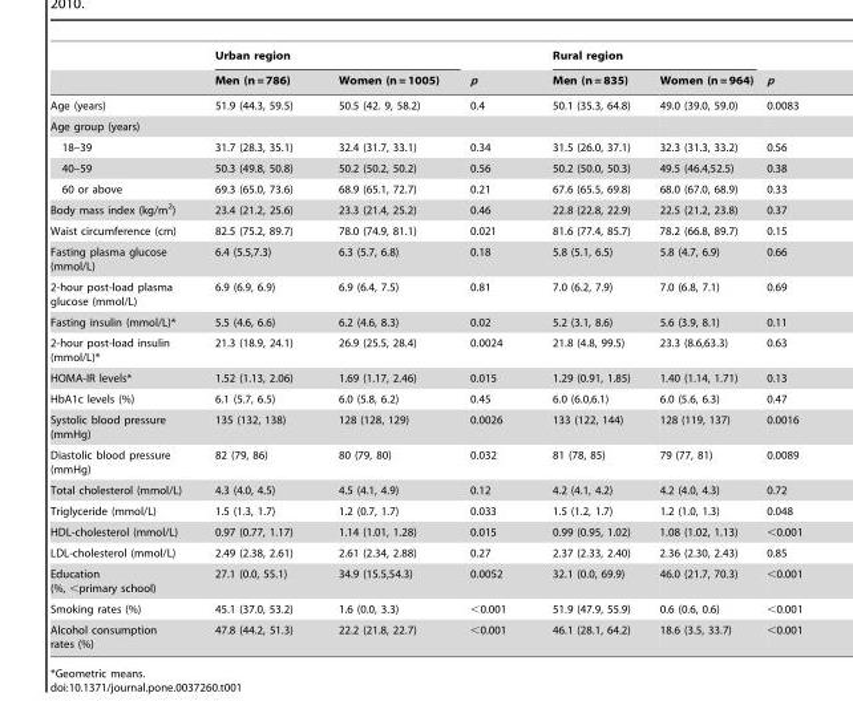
<table><thead><tr><td rowspan="2"></td><td colspan="2">Urban region</td><td rowspan="2">p</td><td colspan="2">Rural region</td><td rowspan="2">p</td></tr><tr><td>Men (n = 786)</td><td>Women (n = 1005)</td><td>Men (n = 835)</td><td>Women (n = 964)</td></tr></thead><tbody><tr><td>Age (years)</td><td>51.9 (44.3, 59.5)</td><td>50.5 (42. 9, 58.2)</td><td>0.4</td><td>50.1 (35.3, 64.8)</td><td>49.0 (39.0, 59.0)</td><td>0.0083</td></tr><tr><td colspan="7">Age group (years)</td></tr><tr><td>18–39</td><td>31.7 (28.3, 35.1)</td><td>32.4 (31.7, 33.1)</td><td>0.34</td><td>31.5 (26.0, 37.1)</td><td>32.3 (31.3, 33.2)</td><td>0.56</td></tr><tr><td>40–59</td><td>50.3 (49.8, 50.8)</td><td>50.2 (50.2, 50.2)</td><td>0.56</td><td>50.2 (50.0, 50.3)</td><td>49.5 (46.4,52.5)</td><td>0.38</td></tr><tr><td>60 or above</td><td>69.3 (65.0, 73.6)</td><td>68.9 (65.1, 72.7)</td><td>0.21</td><td>67.6 (65.5, 69.8)</td><td>68.0 (67.0, 68.9)</td><td>0.33</td></tr><tr><td>Body mass index (kg/m<sup>2</sup>)</td><td>23.4 (21.2, 25.6)</td><td>23.3 (21.4, 25.2)</td><td>0.46</td><td>22.8 (22.8, 22.9)</td><td>22.5 (21.2, 23.8)</td><td>0.37</td></tr><tr><td>Waist circumference (cm)</td><td>82.5 (75.2, 89.7)</td><td>78.0 (74.9, 81.1)</td><td>0.021</td><td>81.6 (77.4, 85.7)</td><td>78.2 (66.8, 89.7)</td><td>0.15</td></tr><tr><td>Fasting plasma glucose (mmol/L)</td><td>6.4 (5.5,7.3)</td><td>6.3 (5.7, 6.8)</td><td>0.18</td><td>5.8 (5.1, 6.5)</td><td>5.8 (4.7, 6.9)</td><td>0.66</td></tr><tr><td>2-hour post-load plasma glucose (mmol/L)</td><td>6.9 (6.9, 6.9)</td><td>6.9 (6.4, 7.5)</td><td>0.81</td><td>7.0 (6.2, 7.9)</td><td>7.0 (6.8, 7.1)</td><td>0.69</td></tr><tr><td>Fasting insulin (mmol/L)*</td><td>5.5 (4.6, 6.6)</td><td>6.2 (4.6, 8.3)</td><td>0.02</td><td>5.2 (3.1, 8.6)</td><td>5.6 (3.9, 8.1)</td><td>0.11</td></tr><tr><td>2-hour post-load insulin (mmol/L)*</td><td>21.3 (18.9, 24.1)</td><td>26.9 (25.5, 28.4)</td><td>0.0024</td><td>21.8 (4.8, 99.5)</td><td>23.3 (8.6,63.3)</td><td>0.63</td></tr><tr><td>HOMA-IR levels*</td><td>1.52 (1.13, 2.06)</td><td>1.69 (1.17, 2.46)</td><td>0.015</td><td>1.29 (0.91, 1.85)</td><td>1.40 (1.14, 1.71)</td><td>0.13</td></tr><tr><td>HbA1c levels (%)</td><td>6.1 (5.7, 6.5)</td><td>6.0 (5.8, 6.2)</td><td>0.45</td><td>6.0 (6.0,6.1)</td><td>6.0 (5.6, 6.3)</td><td>0.47</td></tr><tr><td>Systolic blood pressure (mmHg)</td><td>135 (132, 138)</td><td>128 (128, 129)</td><td>0.0026</td><td>133 (122, 144)</td><td>128 (119, 137)</td><td>0.0016</td></tr><tr><td>Diastolic blood pressure (mmHg)</td><td>82 (79, 86)</td><td>80 (79, 80)</td><td>0.032</td><td>81 (78, 85)</td><td>79 (77, 81)</td><td>0.0089</td></tr><tr><td>Total cholesterol (mmol/L)</td><td>4.3 (4.0, 4.5)</td><td>4.5 (4.1, 4.9)</td><td>0.12</td><td>4.2 (4.1, 4.2)</td><td>4.2 (4.0, 4.3)</td><td>0.72</td></tr><tr><td>Triglyceride (mmol/L)</td><td>1.5 (1.3, 1.7)</td><td>1.2 (0.7, 1.7)</td><td>0.033</td><td>1.5 (1.2, 1.7)</td><td>1.2 (1.0, 1.3)</td><td>0.048</td></tr><tr><td>HDL-cholesterol (mmol/L)</td><td>0.97 (0.77, 1.17)</td><td>1.14 (1.01, 1.28)</td><td>0.015</td><td>0.99 (0.95, 1.02)</td><td>1.08 (1.02, 1.13)</td><td>&lt;0.001</td></tr><tr><td>LDL-cholesterol (mmol/L)</td><td>2.49 (2.38, 2.61)</td><td>2.61 (2.34, 2.88)</td><td>0.27</td><td>2.37 (2.33, 2.40)</td><td>2.36 (2.30, 2.43)</td><td>0.85</td></tr><tr><td>Education (%, &lt;primary school)</td><td>27.1 (0.0, 55.1)</td><td>34.9 (15.5,54.3)</td><td>0.0052</td><td>32.1 (0.0, 69.9)</td><td>46.0 (21.7, 70.3)</td><td>&lt;0.001</td></tr><tr><td>Smoking rates (%)</td><td>45.1 (37.0, 53.2)</td><td>1.6 (0.0, 3.3)</td><td>&lt;0.001</td><td>51.9 (47.9, 55.9)</td><td>0.6 (0.6, 0.6)</td><td>&lt;0.001</td></tr><tr><td>Alcohol consumption rates (%)</td><td>47.8 (44.2, 51.3)</td><td>22.2 (21.8, 22.7)</td><td>&lt;0.001</td><td>46.1 (28.1, 64.2)</td><td>18.6 (3.5, 33.7)</td><td>&lt;0.001</td></tr></tbody></table>